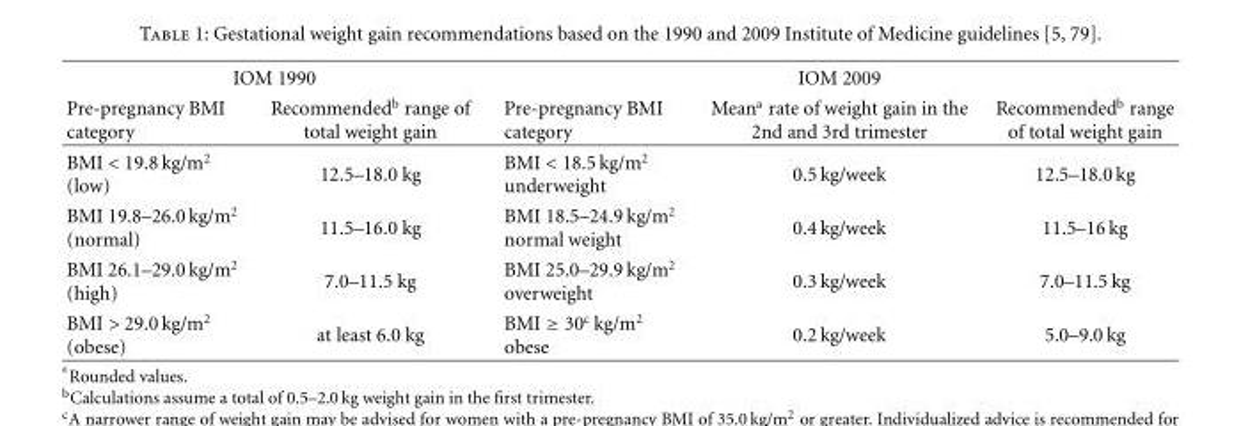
<table><thead><tr><td colspan="2">IOM 1990</td><td colspan="3">IOM 2009</td></tr><tr><td>Pre-pregnancy BMI category</td><td>Recommended<sup>b</sup> range of total weight gain</td><td>Pre-pregnancy BMI category</td><td>Mean<sup>a</sup> rate of weight gain in the 2nd and 3rd trimester</td><td>Recommended<sup>b</sup> range of total weight gain</td></tr></thead><tbody><tr><td>BMI &lt; 19.8 kg/m<sup>2</sup> (low)</td><td>12.5–18.0 kg</td><td>BMI &lt; 18.5 kg/m<sup>2</sup> underweight</td><td>0.5 kg/week</td><td>12.5–18.0 kg</td></tr><tr><td>BMI 19.8–26.0 kg/m<sup>2</sup> (normal)</td><td>11.5–16.0 kg</td><td>BMI 18.5–24.9 kg/m<sup>2</sup> normal weight</td><td>0.4 kg/week</td><td>11.5–16 kg</td></tr><tr><td>BMI 26.1–29.0 kg/m<sup>2</sup> (high)</td><td>7.0–11.5 kg</td><td>BMI 25.0–29.9 kg/m<sup>2</sup> overweight</td><td>0.3 kg/week</td><td>7.0–11.5 kg</td></tr><tr><td>BMI &gt; 29.0 kg/m<sup>2</sup> (obese)</td><td>at least 6.0 kg</td><td>BMI ≥ 30<sup>c</sup> kg/m<sup>2</sup> obese</td><td>0.2 kg/week</td><td>5.0–9.0 kg</td></tr></tbody></table>